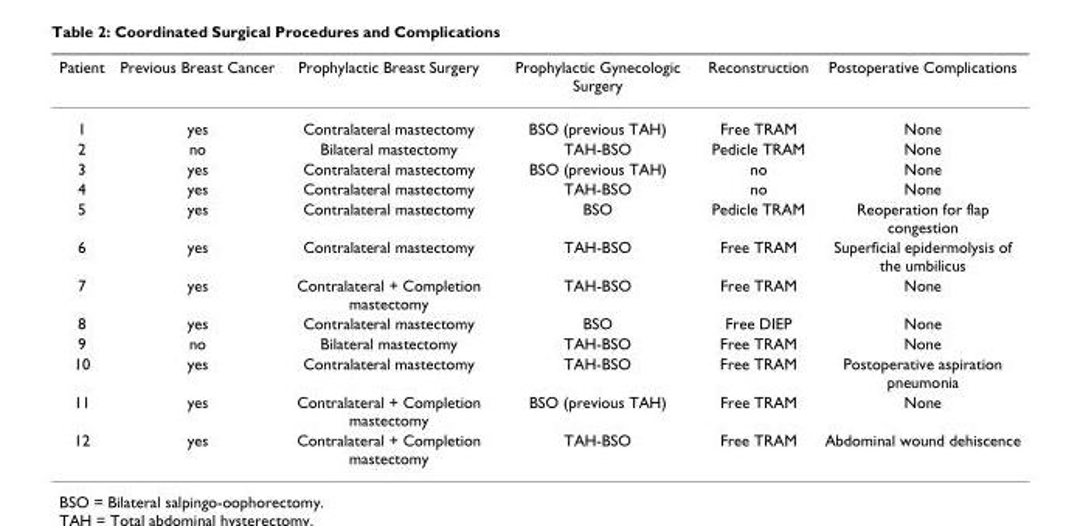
<table><thead><tr><td>Patient</td><td>Previous Breast Cancer</td><td>Prophylactic Breast Surgery</td><td>Prophylactic Gynecologic Surgery</td><td>Reconstruction</td><td>Postoperative Complications</td></tr></thead><tbody><tr><td>1</td><td>yes</td><td>Contralateral mastectomy</td><td>BSO (previous TAH)</td><td>Free TRAM</td><td>None</td></tr><tr><td>2</td><td>no</td><td>Bilateral mastectomy</td><td>TAH-BSO</td><td>Pedicle TRAM</td><td>None</td></tr><tr><td>3</td><td>yes</td><td>Contralateral mastectomy</td><td>BSO (previous TAH)</td><td>no</td><td>None</td></tr><tr><td>4</td><td>yes</td><td>Contralateral mastectomy</td><td>TAH-BSO</td><td>no</td><td>None</td></tr><tr><td>5</td><td>yes</td><td>Contralateral mastectomy</td><td>BSO</td><td>Pedicle TRAM</td><td>Reoperation for flap congestion</td></tr><tr><td>6</td><td>yes</td><td>Contralateral mastectomy</td><td>TAH-BSO</td><td>Free TRAM</td><td>Superficial epidermolysis of the umbilicus</td></tr><tr><td>7</td><td>yes</td><td>Contralateral + Completion mastectomy</td><td>TAH-BSO</td><td>Free TRAM</td><td>None</td></tr><tr><td>8</td><td>yes</td><td>Contralateral mastectomy</td><td>BSO</td><td>Free DIEP</td><td>None</td></tr><tr><td>9</td><td>no</td><td>Bilateral mastectomy</td><td>TAH-BSO</td><td>Free TRAM</td><td>None</td></tr><tr><td>10</td><td>yes</td><td>Contralateral mastectomy</td><td>TAH-BSO</td><td>Free TRAM</td><td>Postoperative aspiration pneumonia</td></tr><tr><td>11</td><td>yes</td><td>Contralateral + Completion mastectomy</td><td>BSO (previous TAH)</td><td>Free TRAM</td><td>None</td></tr><tr><td>12</td><td>yes</td><td>Contralateral + Completion mastectomy</td><td>TAH-BSO</td><td>Free TRAM</td><td>Abdominal wound dehiscence</td></tr></tbody></table>